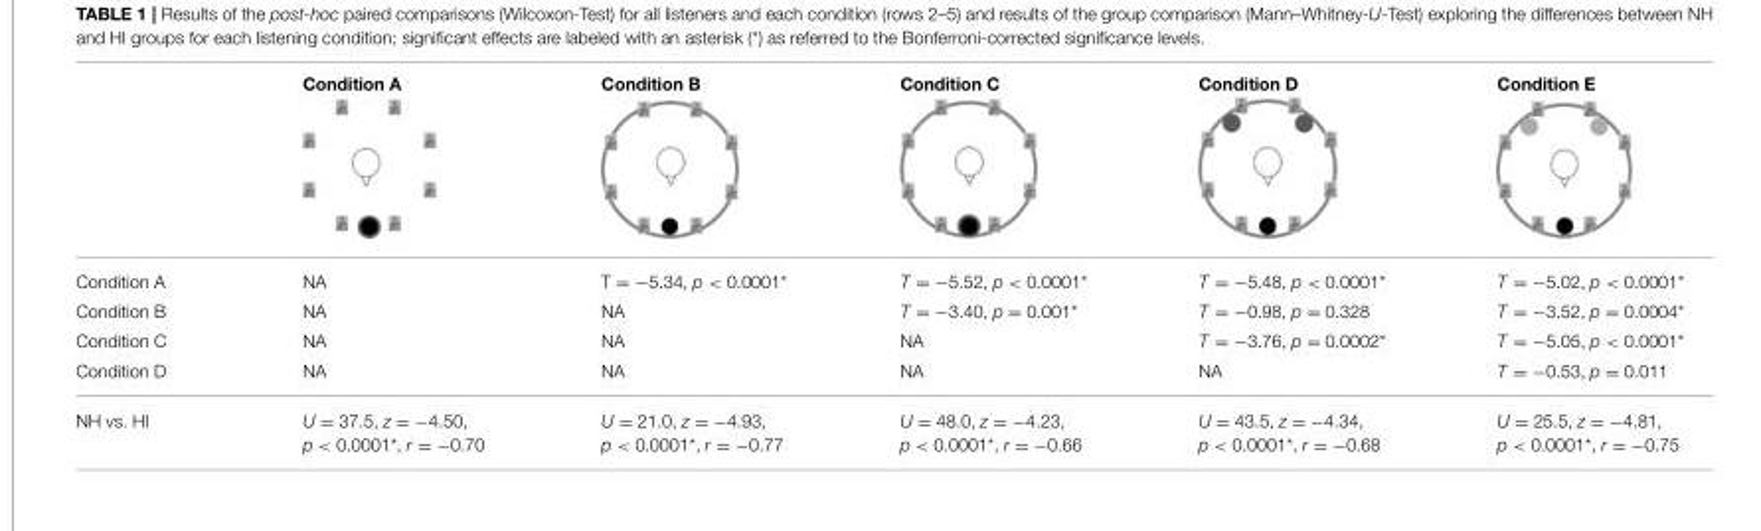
<table><thead><tr><td></td><td>Condition A</td><td>Condition B</td><td>Condition C</td><td>Condition D</td><td>Condition E</td></tr></thead><tbody><tr><td>Condition A</td><td>NA</td><td>T = −5.34, p &lt; 0.0001*</td><td>T = −5.52, p &lt; 0.0001*</td><td>T = −5.48, p &lt; 0.0001*</td><td>T = −5.02, p &lt; 0.0001*</td></tr><tr><td>Condition B</td><td>NA</td><td>NA</td><td>T = −3.40, p = 0.001*</td><td>T = −0.98, p = 0.328</td><td>T = −3.52, p = 0.0004*</td></tr><tr><td>Condition C</td><td>NA</td><td>NA</td><td>NA</td><td>T = −3.76, p = 0.0002*</td><td>T = −5.05, p &lt; 0.0001*</td></tr><tr><td>Condition D</td><td>NA</td><td>NA</td><td>NA</td><td>NA</td><td>T = −0.53, p = 0.011</td></tr><tr><td>NH vs. HI</td><td>U = 37.5, z = −4.50, p &lt; 0.0001*, r = −0.70</td><td>U = 21.0, z = −4.93, p &lt; 0.0001*, r = −0.77</td><td>U = 48.0, z = −4.23, p &lt; 0.0001*, r = −0.66</td><td>U = 43.5, z = −4.34, p &lt; 0.0001*, r = −0.68</td><td>U = 25.5, z = −4.81, p &lt; 0.0001*, r = −0.75</td></tr></tbody></table>